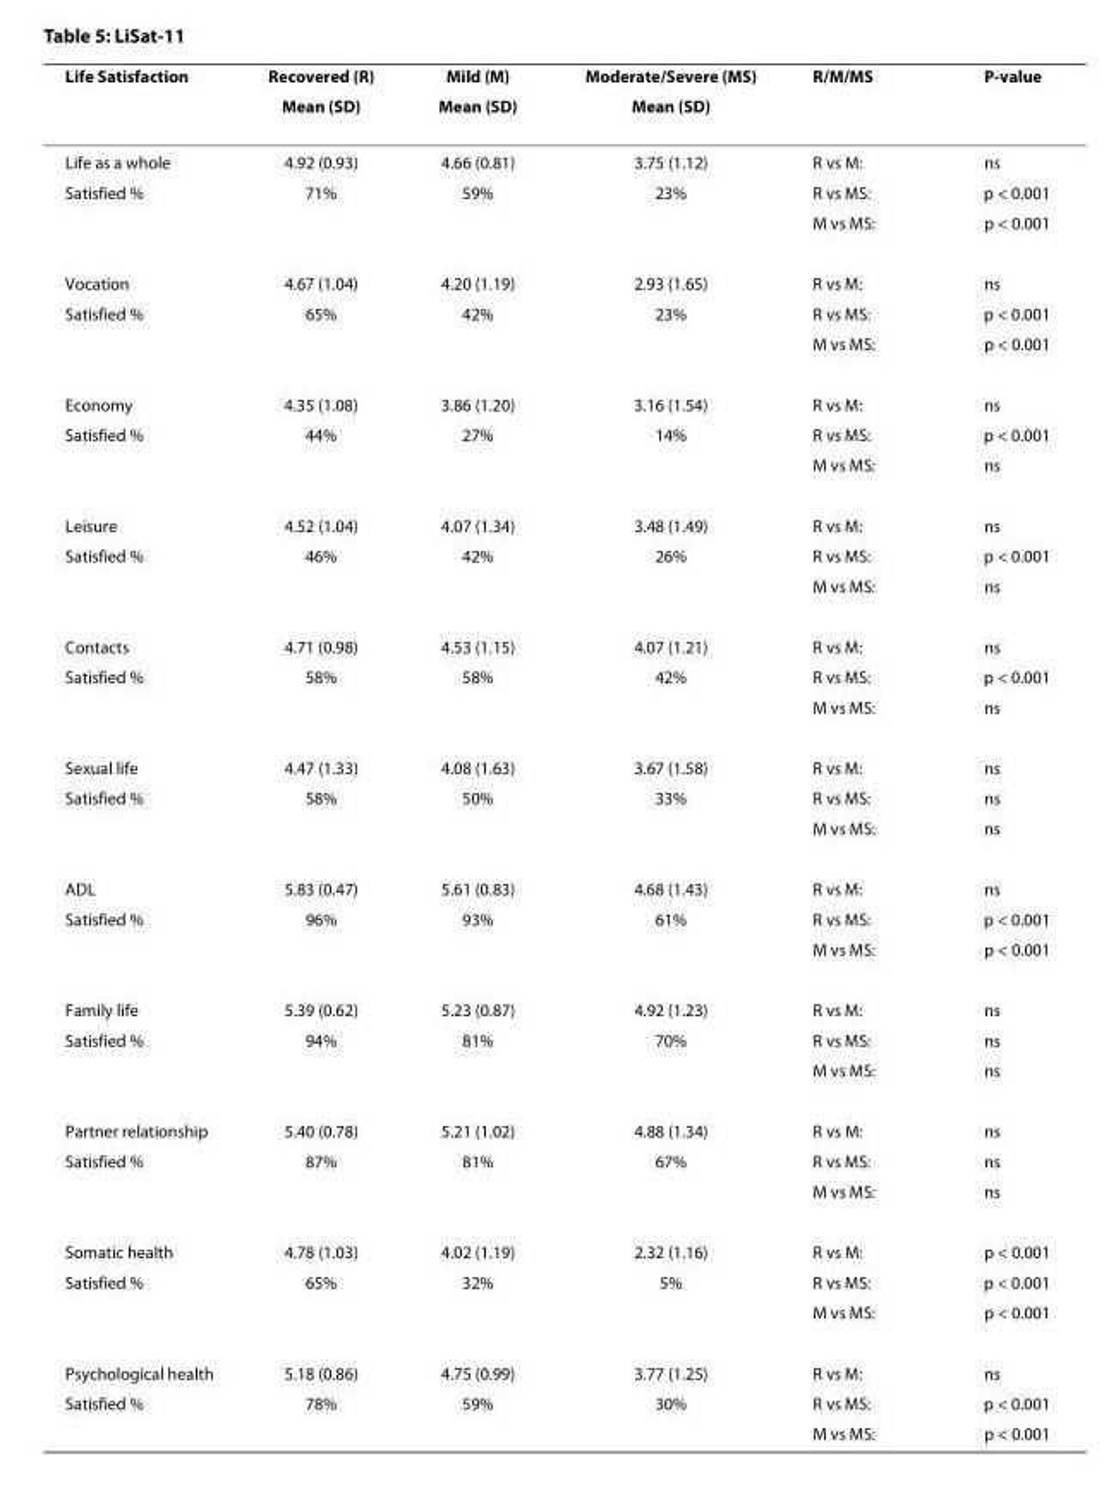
<table><thead><tr><td rowspan="2">Life Satisfaction</td><td rowspan="2">Recovered (R) Mean (SD)</td><td rowspan="2">Mild (M) Mean (SD)</td><td rowspan="2">Moderate/Severe (MS) Mean (SD)</td><td rowspan="2">R/M/MS</td><td rowspan="2">P-value</td></tr><tr></tr></thead><tbody><tr><td>Life as a whole</td><td>4.92 (0.93)</td><td>4.66 (0.81)</td><td>3.75 (1.12)</td><td>R vs M:</td><td>ns</td></tr><tr><td rowspan="2">Satisfied %</td><td>71%</td><td>59%</td><td>23%</td><td>R vs MS:</td><td>p &lt; 0.001</td></tr><tr><td></td><td></td><td></td><td>M vs MS:</td><td>p &lt; 0.001</td></tr><tr><td>Vocation</td><td>4.67 (1.04)</td><td>4.20 (1.19)</td><td>2.93 (1.65)</td><td>R vs M:</td><td>ns</td></tr><tr><td rowspan="2">Satisfied %</td><td>65%</td><td>42%</td><td>23%</td><td>R vs MS:</td><td>p &lt; 0.001</td></tr><tr><td></td><td></td><td></td><td>M vs MS:</td><td>p &lt; 0.001</td></tr><tr><td>Economy</td><td>4.35 (1.08)</td><td>3.86 (1.20)</td><td>3.16 (1.54)</td><td>R vs M:</td><td>ns</td></tr><tr><td rowspan="2">Satisfied %</td><td>44%</td><td>27%</td><td>14%</td><td>R vs MS:</td><td>p &lt; 0.001</td></tr><tr><td></td><td></td><td></td><td>M vs MS:</td><td>ns</td></tr><tr><td>Leisure</td><td>4.52 (1.04)</td><td>4.07 (1.34)</td><td>3.48 (1.49)</td><td>R vs M:</td><td>ns</td></tr><tr><td rowspan="2">Satisfied %</td><td>46%</td><td>42%</td><td>26%</td><td>R vs MS:</td><td>p &lt; 0.001</td></tr><tr><td></td><td></td><td></td><td>M vs MS:</td><td>ns</td></tr><tr><td>Contacts</td><td>4.71 (0.98)</td><td>4.53 (1.15)</td><td>4.07 (1.21)</td><td>R vs M:</td><td>ns</td></tr><tr><td rowspan="2">Satisfied %</td><td>58%</td><td>58%</td><td>42%</td><td>R vs MS:</td><td>p &lt; 0.001</td></tr><tr><td></td><td></td><td></td><td>M vs MS:</td><td>ns</td></tr><tr><td>Sexual life</td><td>4.47 (1.33)</td><td>4.08 (1.63)</td><td>3.67 (1.58)</td><td>R vs M:</td><td>ns</td></tr><tr><td rowspan="2">Satisfied %</td><td>58%</td><td>50%</td><td>33%</td><td>R vs MS:</td><td>ns</td></tr><tr><td></td><td></td><td></td><td>M vs MS:</td><td>ns</td></tr><tr><td>ADL</td><td>5.83 (0.47)</td><td>5.61 (0.83)</td><td>4.68 (1.43)</td><td>R vs M:</td><td>ns</td></tr><tr><td rowspan="2">Satisfied %</td><td>96%</td><td>93%</td><td>61%</td><td>R vs MS:</td><td>p &lt; 0.001</td></tr><tr><td></td><td></td><td></td><td>M vs MS:</td><td>p &lt; 0.001</td></tr><tr><td>Family life</td><td>5.39 (0.62)</td><td>5.23 (0.87)</td><td>4.92 (1.23)</td><td>R vs M:</td><td>ns</td></tr><tr><td rowspan="2">Satisfied %</td><td>94%</td><td>81%</td><td>70%</td><td>R vs MS:</td><td>ns</td></tr><tr><td></td><td></td><td></td><td>M vs MS:</td><td>ns</td></tr><tr><td>Partner relationship</td><td>5.40 (0.78)</td><td>5.21 (1.02)</td><td>4.88 (1.34)</td><td>R vs M:</td><td>ns</td></tr><tr><td rowspan="2">Satisfied %</td><td>87%</td><td>81%</td><td>67%</td><td>R vs MS:</td><td>ns</td></tr><tr><td></td><td></td><td></td><td>M vs MS:</td><td>ns</td></tr><tr><td>Somatic health</td><td>4.78 (1.03)</td><td>4.02 (1.19)</td><td>2.32 (1.16)</td><td>R vs M:</td><td>p &lt; 0.001</td></tr><tr><td rowspan="2">Satisfied %</td><td>65%</td><td>32%</td><td>5%</td><td>R vs MS:</td><td>p &lt; 0.001</td></tr><tr><td></td><td></td><td></td><td>M vs MS:</td><td>p &lt; 0.001</td></tr><tr><td>Psychological health</td><td>5.18 (0.86)</td><td>4.75 (0.99)</td><td>3.77 (1.25)</td><td>R vs M:</td><td>ns</td></tr><tr><td rowspan="2">Satisfied %</td><td>78%</td><td>59%</td><td>30%</td><td>R vs MS:</td><td>p &lt; 0.001</td></tr><tr><td></td><td></td><td></td><td>M vs MS:</td><td>p &lt; 0.001</td></tr></tbody></table>